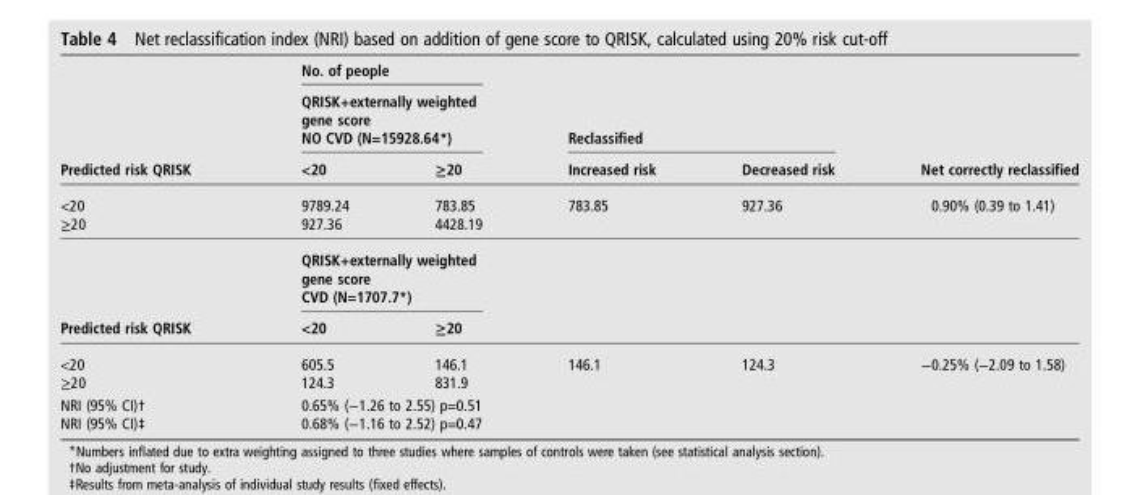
<table><thead><tr><td rowspan="3">Predicted risk QRISK</td><td rowspan="2" colspan="2">No. of people QRISK+externally weighted gene score NO CVD (N=15928.64*)</td><td></td><td></td><td rowspan="3">Net correctly reclassified</td></tr><tr><td colspan="2">Reclassified</td></tr><tr><td>&lt;20</td><td>≥20</td><td>Increased risk</td><td>Decreased risk</td></tr></thead><tbody><tr><td rowspan="2">&lt;20 ≥20</td><td>9789.24 927.36</td><td>783.85 4428.19</td><td>783.85</td><td>927.36</td><td>0.90% (0.39 to 1.41)</td></tr><tr><td colspan="2">QRISK+externally weighted gene score CVD (N=1707.7*)</td><td></td><td></td><td></td></tr><tr><td>Predicted risk QRISK</td><td>&lt;20</td><td>≥20</td><td></td><td></td><td></td></tr><tr><td>&lt;20 ≥20</td><td>605.5 124.3</td><td>146.1 831.9</td><td>146.1</td><td>124.3</td><td>−0.25% (−2.09 to 1.58)</td></tr><tr><td>NRI (95% CI)† NRI (95% CI)‡</td><td colspan="2">0.65% (−1.26 to 2.55) p=0.51 0.68% (−1.16 to 2.52) p=0.47</td><td></td><td></td><td></td></tr></tbody></table>